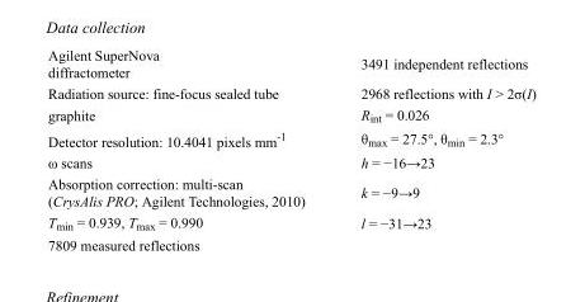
<table><tbody><tr><td>Agilent SuperNova diffractometer</td><td>3491 independent reflections</td></tr><tr><td>Radiation source: fine-focus sealed tube</td><td>2968 reflections with I &gt; 2σ(I)</td></tr><tr><td>graphite</td><td>R<sub>int</sub> = 0.026</td></tr><tr><td>Detector resolution: 10.4041 pixels mm<sup>-1</sup></td><td>θ<sub>max</sub> = 27.5°, θ<sub>min</sub> = 2.3°</td></tr><tr><td>ω scans</td><td>h = −16→23</td></tr><tr><td>Absorption correction: multi-scan (CrysAlis PRO; Agilent Technologies, 2010)</td><td>k = −9→9</td></tr><tr><td>T<sub>min</sub> = 0.939, T<sub>max</sub> = 0.990</td><td>l = −31→23</td></tr><tr><td>7809 measured reflections</td><td></td></tr></tbody></table>